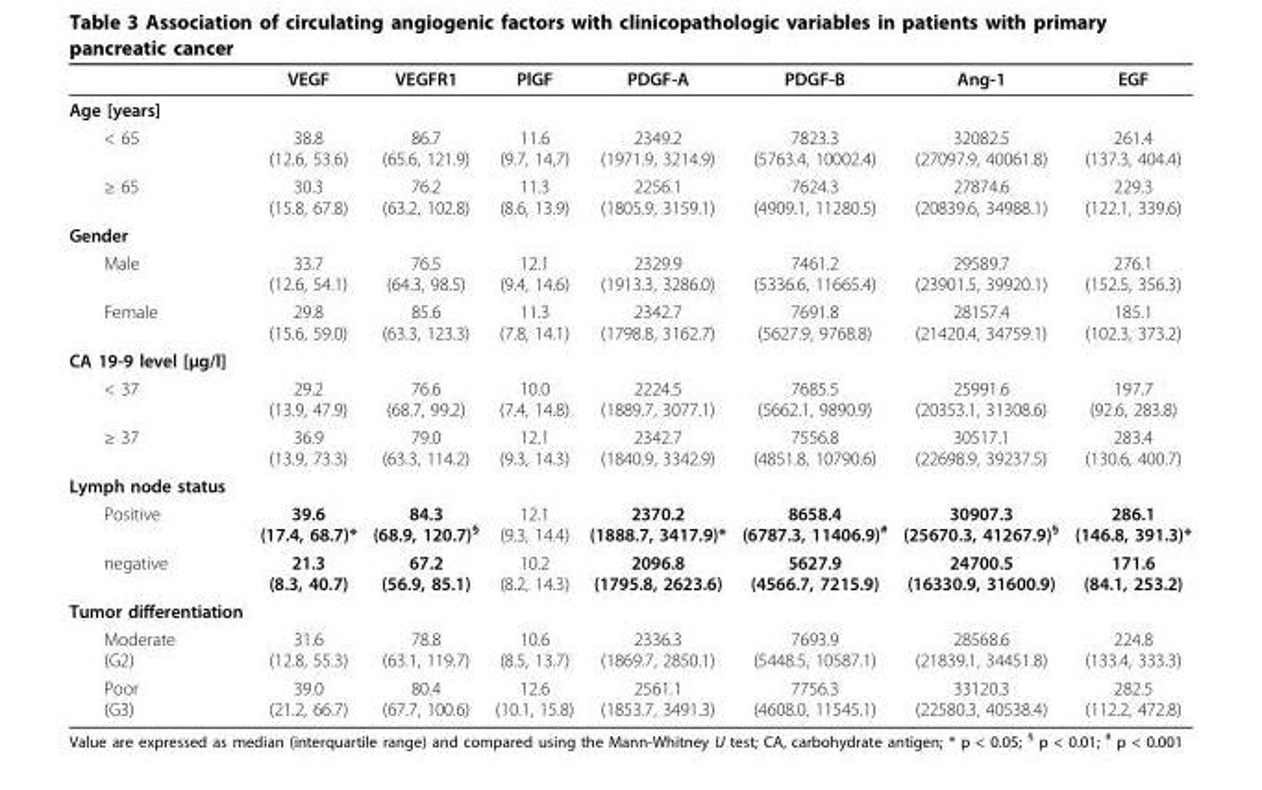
<table><thead><tr><td></td><td>VEGF</td><td>VEGFR1</td><td>PlGF</td><td>PDGF-A</td><td>PDGF-B</td><td>Ang-1</td><td>EGF</td></tr></thead><tbody><tr><td colspan="8">Age [years]</td></tr><tr><td>&lt; 65</td><td>38.8 (12.6, 53.6)</td><td>86.7 (65.6, 121.9)</td><td>11.6 (9.7, 14,7)</td><td>2349.2 (1971.9, 3214.9)</td><td>7823.3 (5763.4, 10002.4)</td><td>32082.5 (27097.9, 40061.8)</td><td>261.4 (137.3, 404.4)</td></tr><tr><td>≥ 65</td><td>30.3 (15.8, 67.8)</td><td>76.2 (63.2, 102.8)</td><td>11.3 (8.6, 13.9)</td><td>2256.1 (1805.9, 3159.1)</td><td>7624.3 (4909.1, 11280.5)</td><td>27874.6 (20839.6, 34988.1)</td><td>229.3 (122.1, 339.6)</td></tr><tr><td colspan="8">Gender</td></tr><tr><td>Male</td><td>33.7 (12.6, 54.1)</td><td>76.5 (64.3, 98.5)</td><td>12.1 (9.4, 14.6)</td><td>2329.9 (1913.3, 3286.0)</td><td>7461.2 (5336.6, 11665.4)</td><td>29589.7 (23901.5, 39920.1)</td><td>276.1 (152.5, 356.3)</td></tr><tr><td>Female</td><td>29.8 (15.6, 59.0)</td><td>85.6 (63.3, 123.3)</td><td>11.3 (7.8, 14.1)</td><td>2342.7 (1798.8, 3162.7)</td><td>7691.8 (5627.9, 9768.8)</td><td>28157.4 (21420.4, 34759.1)</td><td>185.1 (102.3, 373.2)</td></tr><tr><td colspan="8">CA 19-9 level [μg/l]</td></tr><tr><td>&lt; 37</td><td>29.2 (13.9, 47.9)</td><td>76.6 (68.7, 99.2)</td><td>10.0 (7.4, 14.8)</td><td>2224.5 (1889.7, 3077.1)</td><td>7685.5 (5662.1, 9890.9)</td><td>25991.6 (20353.1, 31308.6)</td><td>197.7 (92.6, 283.8)</td></tr><tr><td>≥ 37</td><td>36.9 (13.9, 73.3)</td><td>79.0 (63.3, 114.2)</td><td>12.1 (9.3, 14.3)</td><td>2342.7 (1840.9, 3342.9)</td><td>7556.8 (4851.8, 10790.6)</td><td>30517.1 (22698.9, 39237.5)</td><td>283.4 (130.6, 400.7)</td></tr><tr><td colspan="8">Lymph node status</td></tr><tr><td>Positive</td><td>39.6 (17.4, 68.7)*</td><td>84.3 (68.9, 120.7)<sup>§</sup></td><td>12.1 (9.3, 14.4)</td><td>2370.2 (1888.7, 3417.9)*</td><td>8658.4 (6787.3, 11406.9)<sup>#</sup></td><td>30907.3 (25670.3, 41267.9)<sup>§</sup></td><td>286.1 (146.8, 391.3)*</td></tr><tr><td>negative</td><td>21.3 (8.3, 40.7)</td><td>67.2 (56.9, 85.1)</td><td>10.2 (8.2, 14.3)</td><td>2096.8 (1795.8, 2623.6)</td><td>5627.9 (4566.7, 7215.9)</td><td>24700.5 (16330.9, 31600.9)</td><td>171.6 (84.1, 253.2)</td></tr><tr><td colspan="8">Tumor differentiation</td></tr><tr><td>Moderate (G2)</td><td>31.6 (12.8, 55.3)</td><td>78.8 (63.1, 119.7)</td><td>10.6 (8.5, 13.7)</td><td>2336.3 (1869.7, 2850.1)</td><td>7693.9 (5448.5, 10587.1)</td><td>28568.6 (21839.1, 34451.8)</td><td>224.8 (133.4, 333.3)</td></tr><tr><td>Poor (G3)</td><td>39.0 (21.2, 66.7)</td><td>80.4 (67.7, 100.6)</td><td>12.6 (10.1, 15.8)</td><td>2561.1 (1853.7, 3491.3)</td><td>7756.3 (4608.0, 11545.1)</td><td>33120.3 (22580.3, 40538.4)</td><td>282.5 (112.2, 472.8)</td></tr></tbody></table>